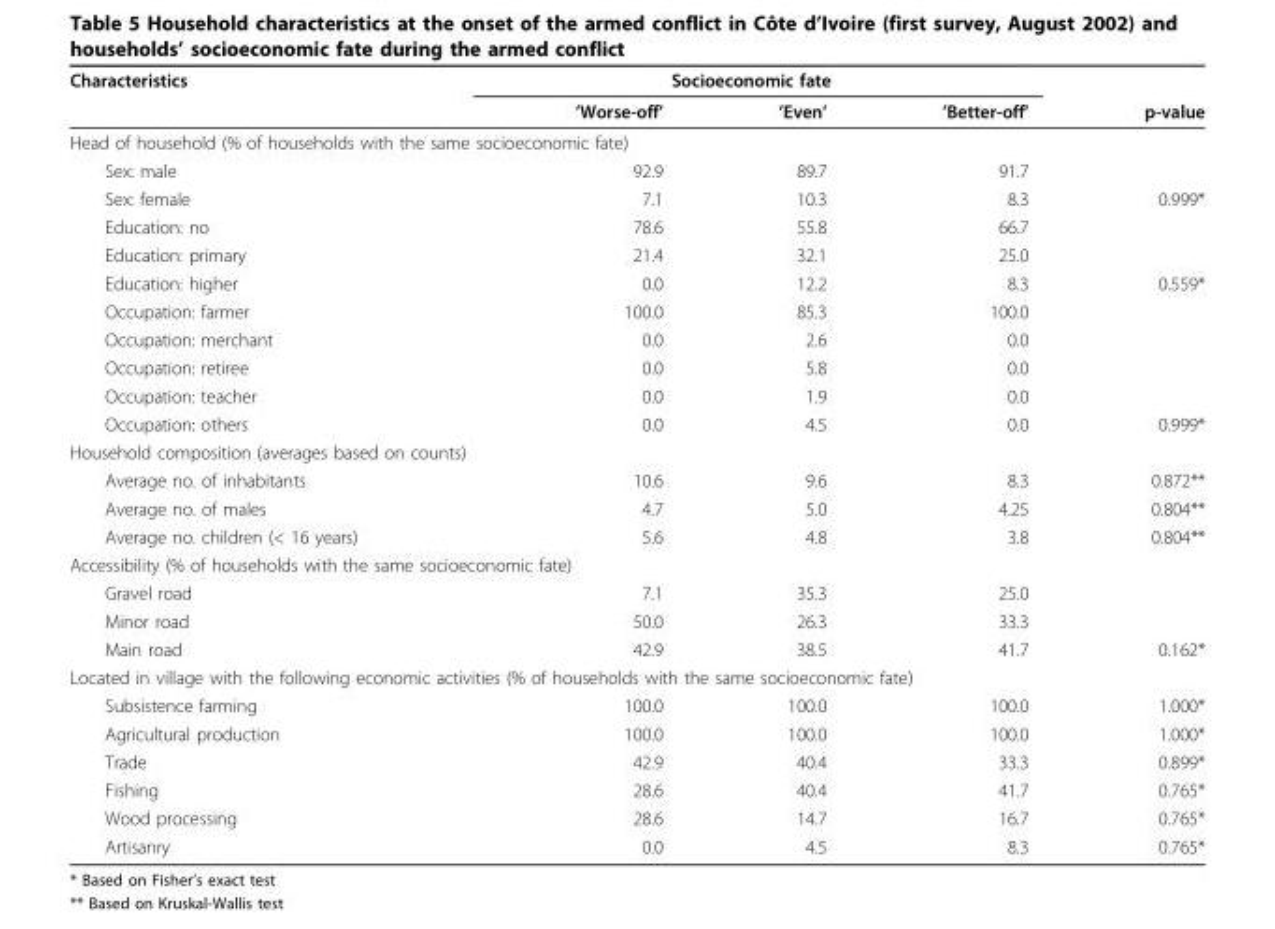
<table><thead><tr><td rowspan="2">Characteristics</td><td colspan="3">Socioeconomic fate</td><td rowspan="2">p-value</td></tr><tr><td>’Worse-off’</td><td>’Even’</td><td>’Better-off’</td></tr></thead><tbody><tr><td colspan="5">Head of household (% of households with the same socioeconomic fate)</td></tr><tr><td>Sex: male</td><td>92.9</td><td>89.7</td><td>91.7</td><td></td></tr><tr><td>Sex: female</td><td>7.1</td><td>10.3</td><td>8.3</td><td>0.999*</td></tr><tr><td>Education: no</td><td>78.6</td><td>55.8</td><td>66.7</td><td></td></tr><tr><td>Education: primary</td><td>21.4</td><td>32.1</td><td>25.0</td><td></td></tr><tr><td>Education: higher</td><td>0.0</td><td>12.2</td><td>8.3</td><td>0.559*</td></tr><tr><td>Occupation: farmer</td><td>100.0</td><td>85.3</td><td>100.0</td><td></td></tr><tr><td>Occupation: merchant</td><td>0.0</td><td>2.6</td><td>0.0</td><td></td></tr><tr><td>Occupation: retiree</td><td>0.0</td><td>5.8</td><td>0.0</td><td></td></tr><tr><td>Occupation: teacher</td><td>0.0</td><td>1.9</td><td>0.0</td><td></td></tr><tr><td>Occupation: others</td><td>0.0</td><td>4.5</td><td>0.0</td><td>0.999*</td></tr><tr><td colspan="5">Household composition (averages based on counts)</td></tr><tr><td>Average no. of inhabitants</td><td>10.6</td><td>9.6</td><td>8.3</td><td>0.872**</td></tr><tr><td>Average no. of males</td><td>4.7</td><td>5.0</td><td>4.25</td><td>0.804**</td></tr><tr><td>Average no. children (&lt; 16 years)</td><td>5.6</td><td>4.8</td><td>3.8</td><td>0.804**</td></tr><tr><td colspan="5">Accessibility (% of households with the same socioeconomic fate)</td></tr><tr><td>Gravel road</td><td>7.1</td><td>35.3</td><td>25.0</td><td></td></tr><tr><td>Minor road</td><td>50.0</td><td>26.3</td><td>33.3</td><td></td></tr><tr><td>Main road</td><td>42.9</td><td>38.5</td><td>41.7</td><td>0.162*</td></tr><tr><td colspan="5">Located in village with the following economic activities (% of households with the same socioeconomic fate)</td></tr><tr><td>Subsistence farming</td><td>100.0</td><td>100.0</td><td>100.0</td><td>1.000*</td></tr><tr><td>Agricultural production</td><td>100.0</td><td>100.0</td><td>100.0</td><td>1.000*</td></tr><tr><td>Trade</td><td>42.9</td><td>40.4</td><td>33.3</td><td>0.899*</td></tr><tr><td>Fishing</td><td>28.6</td><td>40.4</td><td>41.7</td><td>0.765*</td></tr><tr><td>Wood processing</td><td>28.6</td><td>14.7</td><td>16.7</td><td>0.765*</td></tr><tr><td>Artisanry</td><td>0.0</td><td>4.5</td><td>8.3</td><td>0.765*</td></tr></tbody></table>